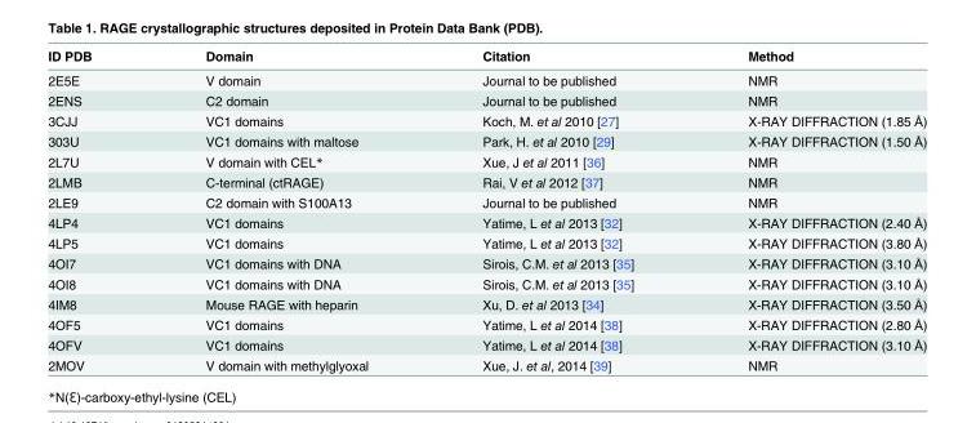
<table><thead><tr><td>ID PDB</td><td>Domain</td><td>Citation</td><td>Method</td></tr></thead><tbody><tr><td>2E5E</td><td>V domain</td><td>Journal to be published</td><td>NMR</td></tr><tr><td>2ENS</td><td>C2 domain</td><td>Journal to be published</td><td>NMR</td></tr><tr><td>3CJJ</td><td>VC1 domains</td><td>Koch, M. et al 2010 [27]</td><td>X-RAY DIFFRACTION (1.85 Å)</td></tr><tr><td>303U</td><td>VC1 domains with maltose</td><td>Park, H. et al 2010 [29]</td><td>X-RAY DIFFRACTION (1.50 Å)</td></tr><tr><td>2L7U</td><td>V domain with CEL*</td><td>Xue, J et al 2011 [36]</td><td>NMR</td></tr><tr><td>2LMB</td><td>C-terminal (ctRAGE)</td><td>Rai, V et al 2012 [37]</td><td>NMR</td></tr><tr><td>2LE9</td><td>C2 domain with S100A13</td><td>Journal to be published</td><td>NMR</td></tr><tr><td>4LP4</td><td>VC1 domains</td><td>Yatime, L et al 2013 [32]</td><td>X-RAY DIFFRACTION (2.40 Å)</td></tr><tr><td>4LP5</td><td>VC1 domains</td><td>Yatime, L et al 2013 [32]</td><td>X-RAY DIFFRACTION (3.80 Å)</td></tr><tr><td>4OI7</td><td>VC1 domains with DNA</td><td>Sirois, C.M. et al 2013 [35]</td><td>X-RAY DIFFRACTION (3.10 Å)</td></tr><tr><td>4OI8</td><td>VC1 domains with DNA</td><td>Sirois, C.M. et al 2013 [35]</td><td>X-RAY DIFFRACTION (3.10 Å)</td></tr><tr><td>4IM8</td><td>Mouse RAGE with heparin</td><td>Xu, D. et al 2013 [34]</td><td>X-RAY DIFFRACTION (3.50 Å)</td></tr><tr><td>4OF5</td><td>VC1 domains</td><td>Yatime, L et al 2014 [38]</td><td>X-RAY DIFFRACTION (2.80 Å)</td></tr><tr><td>4OFV</td><td>VC1 domains</td><td>Yatime, L et al 2014 [38]</td><td>X-RAY DIFFRACTION (3.10 Å)</td></tr><tr><td>2MOV</td><td>V domain with methylglyoxal</td><td>Xue, J. et al, 2014 [39]</td><td>NMR</td></tr></tbody></table>